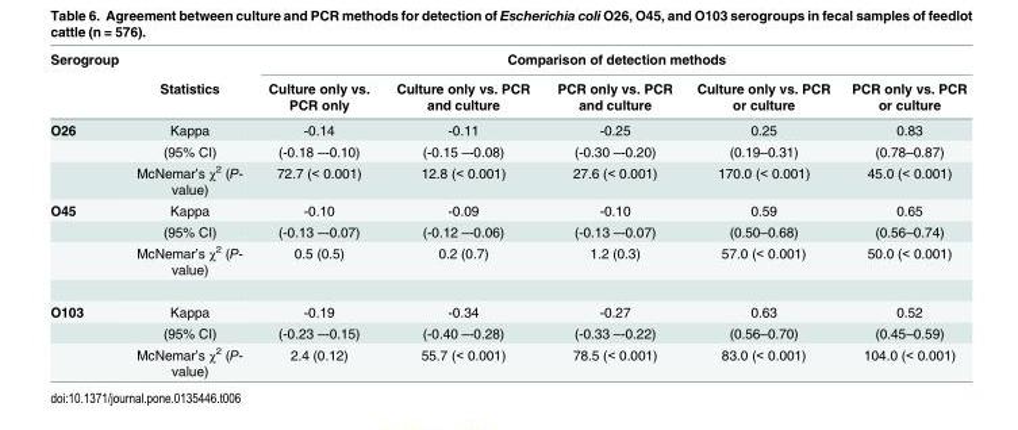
<table><thead><tr><td rowspan="2">Serogroup</td><td rowspan="2">Statistics</td><td colspan="5">Comparison of detection methods</td></tr><tr><td>Culture only vs. PCR only</td><td>Culture only vs. PCR and culture</td><td>PCR only vs. PCR and culture</td><td>Culture only vs. PCR or culture</td><td>PCR only vs. PCR or culture</td></tr></thead><tbody><tr><td rowspan="3">O26</td><td>Kappa</td><td>-0.14</td><td>-0.11</td><td>-0.25</td><td>0.25</td><td>0.83</td></tr><tr><td>(95% CI)</td><td>(-0.18 –-0.10)</td><td>(-0.15 –-0.08)</td><td>(-0.30 –-0.20)</td><td>(0.19–0.31)</td><td>(0.78–0.87)</td></tr><tr><td>McNemar’s χ<sup>2</sup> (P- value)</td><td>72.7 (&lt; 0.001)</td><td>12.8 (&lt; 0.001)</td><td>27.6 (&lt; 0.001)</td><td>170.0 (&lt; 0.001)</td><td>45.0 (&lt; 0.001)</td></tr><tr><td rowspan="3">O45</td><td>Kappa</td><td>-0.10</td><td>-0.09</td><td>-0.10</td><td>0.59</td><td>0.65</td></tr><tr><td>(95% CI)</td><td>(-0.13 –-0.07)</td><td>(-0.12 –-0.06)</td><td>(-0.13 –-0.07)</td><td>(0.50–0.68)</td><td>(0.56–0.74)</td></tr><tr><td>McNemar’s χ<sup>2</sup> (P- value)</td><td>0.5 (0.5)</td><td>0.2 (0.7)</td><td>1.2 (0.3)</td><td>57.0 (&lt; 0.001)</td><td>50.0 (&lt; 0.001)</td></tr><tr><td rowspan="3">O103</td><td>Kappa</td><td>-0.19</td><td>-0.34</td><td>-0.27</td><td>0.63</td><td>0.52</td></tr><tr><td>(95% CI)</td><td>(-0.23 –-0.15)</td><td>(-0.40 –-0.28)</td><td>(-0.33 –-0.22)</td><td>(0.56–0.70)</td><td>(0.45–0.59)</td></tr><tr><td>McNemar’s χ<sup>2</sup> (P- value)</td><td>2.4 (0.12)</td><td>55.7 (&lt; 0.001)</td><td>78.5 (&lt; 0.001)</td><td>83.0 (&lt; 0.001)</td><td>104.0 (&lt; 0.001)</td></tr></tbody></table>